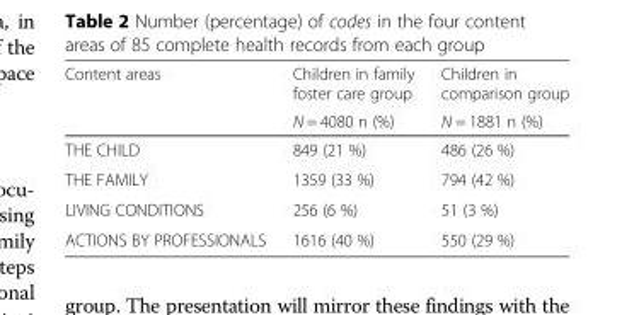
<table><thead><tr><td rowspan="2">Content areas</td><td rowspan="2">Children in family foster care group N = 4080 n (%)</td><td rowspan="2">Children in comparison group N = 1881 n (%)</td></tr><tr></tr></thead><tbody><tr><td>THE CHILD</td><td>849 (21 %)</td><td>486 (26 %)</td></tr><tr><td>THE FAMILY</td><td>1359 (33 %)</td><td>794 (42 %)</td></tr><tr><td>LIVING CONDITIONS</td><td>256 (6 %)</td><td>51 (3 %)</td></tr><tr><td>ACTIONS BY PROFESSIONALS</td><td>1616 (40 %)</td><td>550 (29 %)</td></tr></tbody></table>